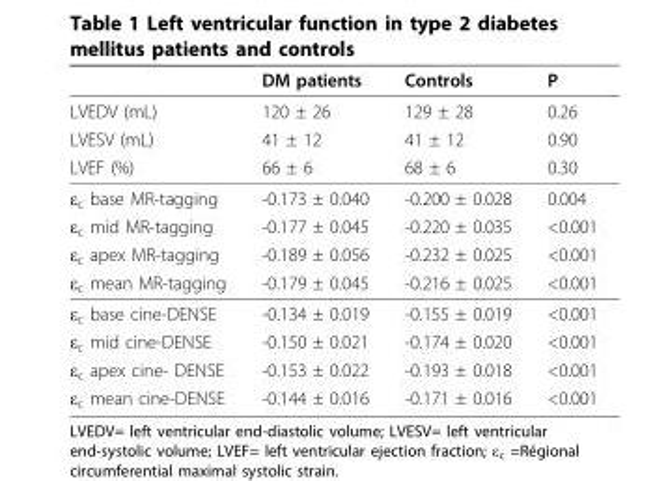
<table><thead><tr><td></td><td>DM patients</td><td>Controls</td><td>P</td></tr></thead><tbody><tr><td>LVEDV (mL)</td><td>120 ± 26</td><td>129 ± 28</td><td>0.26</td></tr><tr><td>LVESV (mL)</td><td>41 ± 12</td><td>41 ± 12</td><td>0.90</td></tr><tr><td>LVEF (%)</td><td>66 ± 6</td><td>68 ± 6</td><td>0.30</td></tr><tr><td>ε<sub>c</sub> base MR-tagging</td><td>-0.173 ± 0.040</td><td>-0.200 ± 0.028</td><td>0.004</td></tr><tr><td>ε<sub>c</sub> mid MR-tagging</td><td>-0.177 ± 0.045</td><td>-0.220 ± 0.035</td><td>&lt;0.001</td></tr><tr><td>ε<sub>c</sub> apex MR-tagging</td><td>-0.189 ± 0.056</td><td>-0.232 ± 0.025</td><td>&lt;0.001</td></tr><tr><td>ε<sub>c</sub> mean MR-tagging</td><td>-0.179 ± 0.045</td><td>-0.216 ± 0.025</td><td>&lt;0.001</td></tr><tr><td>ε<sub>c</sub> base cine-DENSE</td><td>-0.134 ± 0.019</td><td>-0.155 ± 0.019</td><td>&lt;0.001</td></tr><tr><td>ε<sub>c</sub> mid cine-DENSE</td><td>-0.150 ± 0.021</td><td>-0.174 ± 0.020</td><td>&lt;0.001</td></tr><tr><td>ε<sub>c</sub> apex cine- DENSE</td><td>-0.153 ± 0.022</td><td>-0.193 ± 0.018</td><td>&lt;0.001</td></tr><tr><td>ε<sub>c</sub> mean cine-DENSE</td><td>-0.144 ± 0.016</td><td>-0.171 ± 0.016</td><td>&lt;0.001</td></tr></tbody></table>